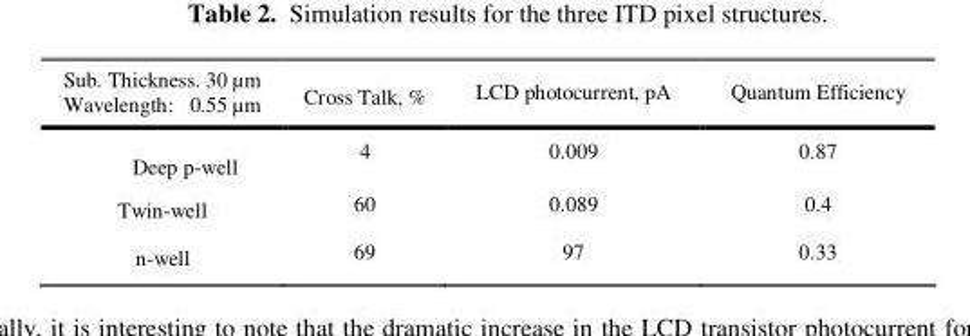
<table><thead><tr><td>Sub. Thickness. 30 µm Wavelength: 0.55 µm</td><td>Cross Talk, %</td><td>LCD photocurrent, pA</td><td>Quantum Efficiency</td></tr></thead><tbody><tr><td>Deep p-well</td><td>4</td><td>0.009</td><td>0.87</td></tr><tr><td>Twin-well</td><td>60</td><td>0.089</td><td>0.4</td></tr><tr><td>n-well</td><td>69</td><td>97</td><td>0.33</td></tr></tbody></table>